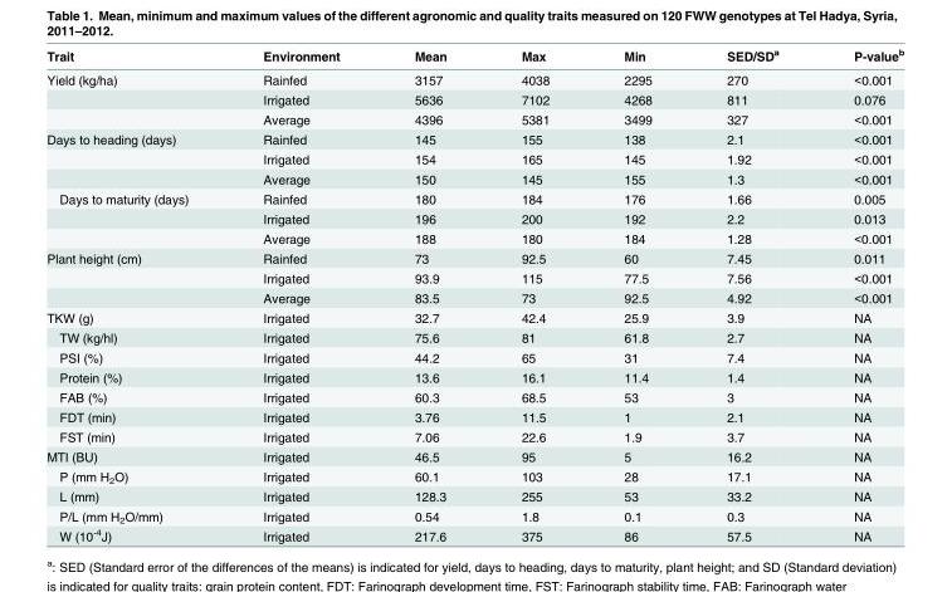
<table><thead><tr><td>Trait</td><td>Environment</td><td>Mean</td><td>Max</td><td>Min</td><td>SED/SD<sup>a</sup></td><td>P-value<sup>b</sup></td></tr></thead><tbody><tr><td rowspan="3">Yield (kg/ha)</td><td>Rainfed</td><td>3157</td><td>4038</td><td>2295</td><td>270</td><td>&lt;0.001</td></tr><tr><td>Irrigated</td><td>5636</td><td>7102</td><td>4268</td><td>811</td><td>0.076</td></tr><tr><td>Average</td><td>4396</td><td>5381</td><td>3499</td><td>327</td><td>&lt;0.001</td></tr><tr><td rowspan="3">Days to heading (days)</td><td>Rainfed</td><td>145</td><td>155</td><td>138</td><td>2.1</td><td>&lt;0.001</td></tr><tr><td>Irrigated</td><td>154</td><td>165</td><td>145</td><td>1.92</td><td>&lt;0.001</td></tr><tr><td>Average</td><td>150</td><td>145</td><td>155</td><td>1.3</td><td>&lt;0.001</td></tr><tr><td rowspan="3">Days to maturity (days)</td><td>Rainfed</td><td>180</td><td>184</td><td>176</td><td>1.66</td><td>0.005</td></tr><tr><td>Irrigated</td><td>196</td><td>200</td><td>192</td><td>2.2</td><td>0.013</td></tr><tr><td>Average</td><td>188</td><td>180</td><td>184</td><td>1.28</td><td>&lt;0.001</td></tr><tr><td rowspan="3">Plant height (cm)</td><td>Rainfed</td><td>73</td><td>92.5</td><td>60</td><td>7.45</td><td>0.011</td></tr><tr><td>Irrigated</td><td>93.9</td><td>115</td><td>77.5</td><td>7.56</td><td>&lt;0.001</td></tr><tr><td>Average</td><td>83.5</td><td>73</td><td>92.5</td><td>4.92</td><td>&lt;0.001</td></tr><tr><td>TKW (g)</td><td>Irrigated</td><td>32.7</td><td>42.4</td><td>25.9</td><td>3.9</td><td>NA</td></tr><tr><td>TW (kg/hl)</td><td>Irrigated</td><td>75.6</td><td>81</td><td>61.8</td><td>2.7</td><td>NA</td></tr><tr><td>PSI (%)</td><td>Irrigated</td><td>44.2</td><td>65</td><td>31</td><td>7.4</td><td>NA</td></tr><tr><td>Protein (%)</td><td>Irrigated</td><td>13.6</td><td>16.1</td><td>11.4</td><td>1.4</td><td>NA</td></tr><tr><td>FAB (%)</td><td>Irrigated</td><td>60.3</td><td>68.5</td><td>53</td><td>3</td><td>NA</td></tr><tr><td>FDT (min)</td><td>Irrigated</td><td>3.76</td><td>11.5</td><td>1</td><td>2.1</td><td>NA</td></tr><tr><td>FST (min)</td><td>Irrigated</td><td>7.06</td><td>22.6</td><td>1.9</td><td>3.7</td><td>NA</td></tr><tr><td>MTI (BU)</td><td>Irrigated</td><td>46.5</td><td>95</td><td>5</td><td>16.2</td><td>NA</td></tr><tr><td>P (mm H<sub>2</sub>O)</td><td>Irrigated</td><td>60.1</td><td>103</td><td>28</td><td>17.1</td><td>NA</td></tr><tr><td>L (mm)</td><td>Irrigated</td><td>128.3</td><td>255</td><td>53</td><td>33.2</td><td>NA</td></tr><tr><td>P/L (mm H<sub>2</sub>O/mm)</td><td>Irrigated</td><td>0.54</td><td>1.8</td><td>0.1</td><td>0.3</td><td>NA</td></tr><tr><td>W (10<sup>-4</sup>J)</td><td>Irrigated</td><td>217.6</td><td>375</td><td>86</td><td>57.5</td><td>NA</td></tr></tbody></table>